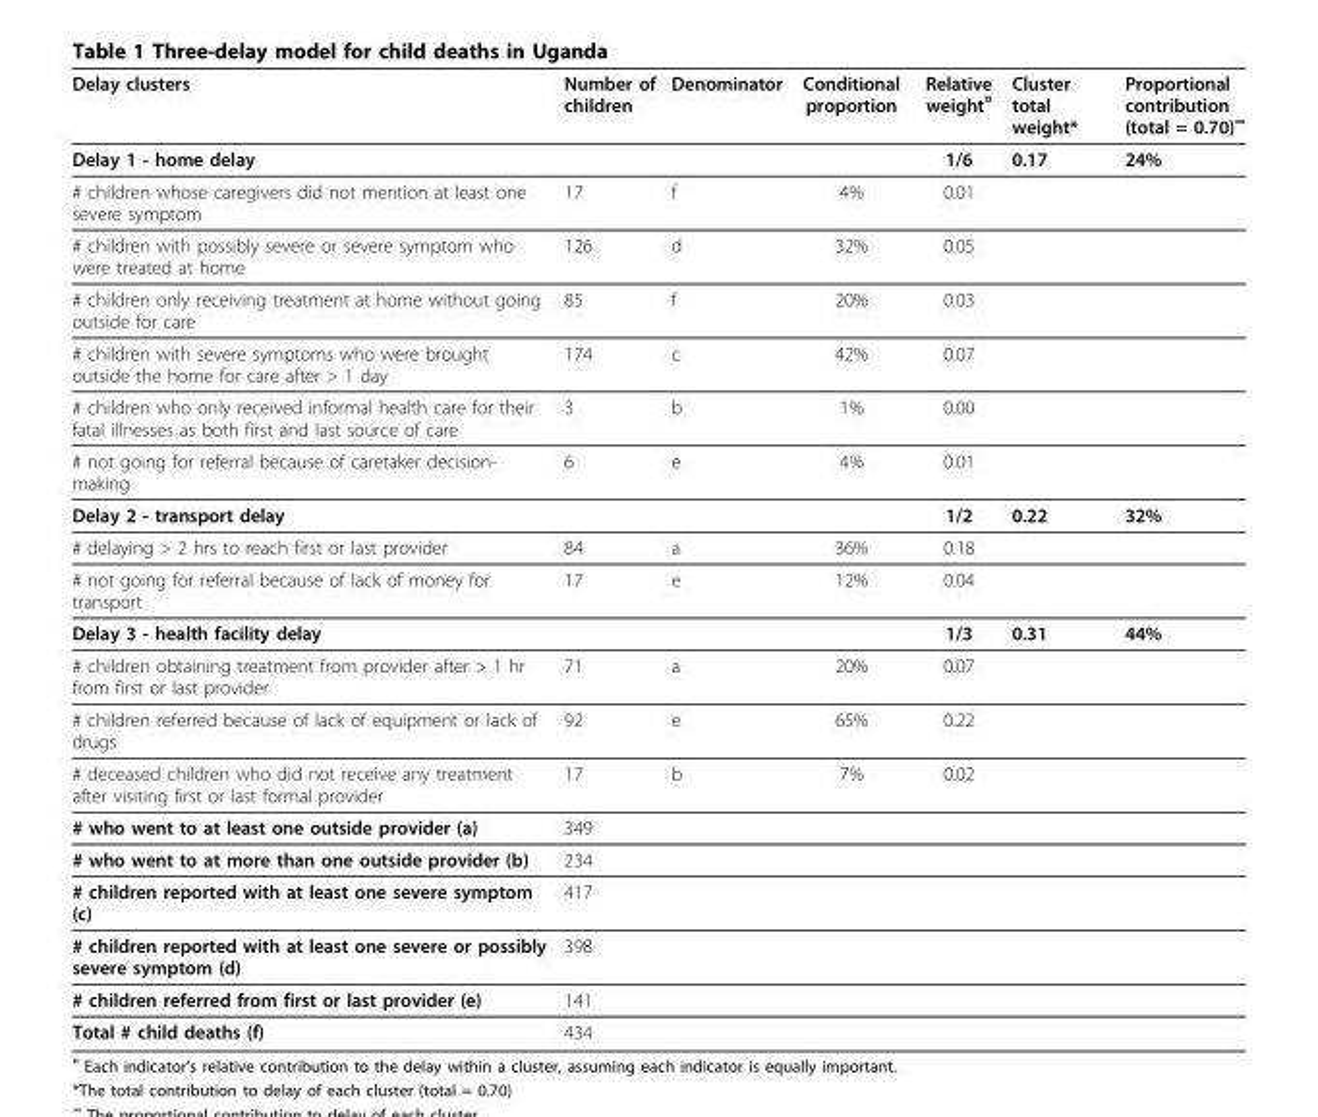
<table><thead><tr><td>Delay clusters</td><td>Number of children</td><td>Denominator</td><td>Conditional proportion</td><td>Relative weight<sup>¤</sup></td><td>Cluster total weight*</td><td>Proportional contribution (total = 0.70)<sup>∞</sup></td></tr></thead><tbody><tr><td>Delay 1 - home delay</td><td></td><td></td><td></td><td>1/6</td><td>0.17</td><td>24%</td></tr><tr><td># children whose caregivers did not mention at least one severe symptom</td><td>17</td><td>f</td><td>4%</td><td>0.01</td><td></td><td></td></tr><tr><td># children with possibly severe or severe symptom who were treated at home</td><td>126</td><td>d</td><td>32%</td><td>0.05</td><td></td><td></td></tr><tr><td># children only receiving treatment at home without going outside for care</td><td>85</td><td>f</td><td>20%</td><td>0.03</td><td></td><td></td></tr><tr><td># children with severe symptoms who were brought outside the home for care after &gt; 1 day</td><td>174</td><td>c</td><td>42%</td><td>0.07</td><td></td><td></td></tr><tr><td># children who only received informal health care for their fatal illnesses as both first and last source of care</td><td>3</td><td>b</td><td>1%</td><td>0.00</td><td></td><td></td></tr><tr><td># not going for referral because of caretaker decision- making</td><td>6</td><td>e</td><td>4%</td><td>0.01</td><td></td><td></td></tr><tr><td>Delay 2 - transport delay</td><td></td><td></td><td></td><td>1/2</td><td>0.22</td><td>32%</td></tr><tr><td># delaying &gt; 2 hrs to reach first or last provider</td><td>84</td><td>a</td><td>36%</td><td>0.18</td><td></td><td></td></tr><tr><td># not going for referral because of lack of money for transport</td><td>17</td><td>e</td><td>12%</td><td>0.04</td><td></td><td></td></tr><tr><td>Delay 3 - health facility delay</td><td></td><td></td><td></td><td>1/3</td><td>0.31</td><td>44%</td></tr><tr><td># children obtaining treatment from provider after &gt; 1 hr from first or last provider</td><td>71</td><td>a</td><td>20%</td><td>0.07</td><td></td><td></td></tr><tr><td># children referred because of lack of equipment or lack of drugs</td><td>92</td><td>e</td><td>65%</td><td>0.22</td><td></td><td></td></tr><tr><td># deceased children who did not receive any treatment after visiting first or last formal provider</td><td>17</td><td>b</td><td>7%</td><td>0.02</td><td></td><td></td></tr><tr><td># who went to at least one outside provider (a)</td><td>349</td><td></td><td></td><td></td><td></td><td></td></tr><tr><td># who went to at more than one outside provider (b)</td><td>234</td><td></td><td></td><td></td><td></td><td></td></tr><tr><td># children reported with at least one severe symptom (c)</td><td>417</td><td></td><td></td><td></td><td></td><td></td></tr><tr><td># children reported with at least one severe or possibly severe symptom (d)</td><td>398</td><td></td><td></td><td></td><td></td><td></td></tr><tr><td># children referred from first or last provider (e)</td><td>141</td><td></td><td></td><td></td><td></td><td></td></tr><tr><td>Total # child deaths (f)</td><td>434</td><td></td><td></td><td></td><td></td><td></td></tr></tbody></table>